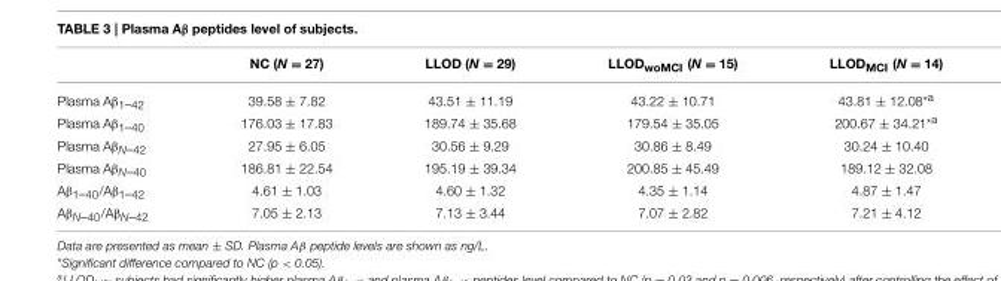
<table><thead><tr><td></td><td>NC (N = 27)</td><td>LLOD (N = 29)</td><td>LLOD<sub>woMCI</sub> (N = 15)</td><td>LLOD<sub>MCI</sub> (N = 14)</td></tr></thead><tbody><tr><td>Plasma Aβ<sub>1–42</sub></td><td>39.58 ± 7.82</td><td>43.51 ± 11.19</td><td>43.22 ± 10.71</td><td>43.81 ± 12.08<sup>*a</sup></td></tr><tr><td>Plasma Aβ<sub>1–40</sub></td><td>176.03 ± 17.83</td><td>189.74 ± 35.68</td><td>179.54 ± 35.05</td><td>200.67 ± 34.21<sup>*a</sup></td></tr><tr><td>Plasma Aβ<sub>N–42</sub></td><td>27.95 ± 6.05</td><td>30.56 ± 9.29</td><td>30.86 ± 8.49</td><td>30.24 ± 10.40</td></tr><tr><td>Plasma Aβ<sub>N–40</sub></td><td>186.81 ± 22.54</td><td>195.19 ± 39.34</td><td>200.85 ± 45.49</td><td>189.12 ± 32.08</td></tr><tr><td>Aβ<sub>1–40</sub>/Aβ<sub>1–42</sub></td><td>4.61 ± 1.03</td><td>4.60 ± 1.32</td><td>4.35 ± 1.14</td><td>4.87 ± 1.47</td></tr><tr><td>Aβ<sub>N–40</sub>/Aβ<sub>N–42</sub></td><td>7.05 ± 2.13</td><td>7.13 ± 3.44</td><td>7.07 ± 2.82</td><td>7.21 ± 4.12</td></tr></tbody></table>